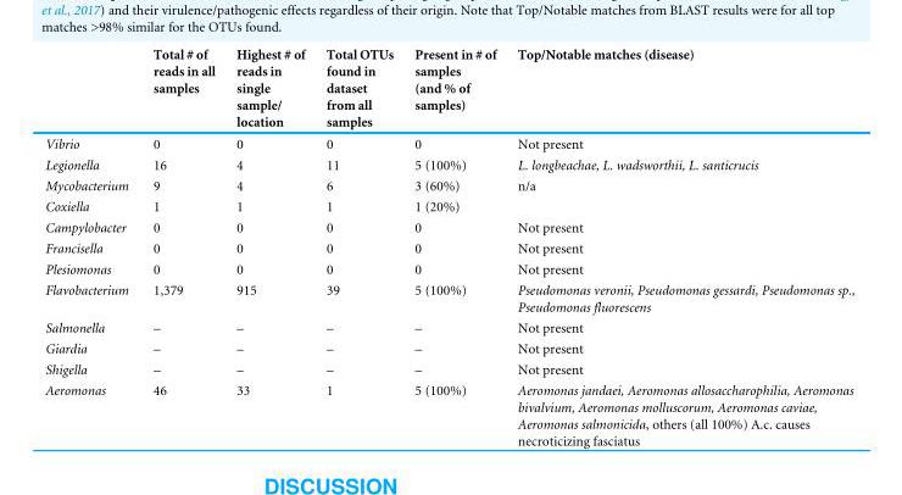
<table><thead><tr><td></td><td>Total # of reads in all samples</td><td>Highest # of reads in single sample/ location</td><td>Total OTUs found in dataset from all samples</td><td>Present in # of samples (and % of samples)</td><td>Top/Notable matches (disease)</td></tr></thead><tbody><tr><td>Vibrio</td><td>0</td><td>0</td><td>0</td><td>0</td><td>Not present</td></tr><tr><td>Legionella</td><td>16</td><td>4</td><td>11</td><td>5 (100%)</td><td>L. longbeachae, L. wadsworthii, L. santicrucis</td></tr><tr><td>Mycobacterium</td><td>9</td><td>4</td><td>6</td><td>3 (60%)</td><td>n/a</td></tr><tr><td>Coxiella</td><td>1</td><td>1</td><td>1</td><td>1 (20%)</td><td></td></tr><tr><td>Campylobacter</td><td>0</td><td>0</td><td>0</td><td>0</td><td>Not present</td></tr><tr><td>Francisella</td><td>0</td><td>0</td><td>0</td><td>0</td><td>Not present</td></tr><tr><td>Plesiomonas</td><td>0</td><td>0</td><td>0</td><td>0</td><td>Not present</td></tr><tr><td>Flavobacterium</td><td>1,379</td><td>915</td><td>39</td><td>5 (100%)</td><td>Pseudomonas veronii, Pseudomonas gessardi, Pseudomonas sp., Pseudomonas fluorescens</td></tr><tr><td>Salmonella</td><td>–</td><td>–</td><td>–</td><td>–</td><td>Not present</td></tr><tr><td>Giardia</td><td>–</td><td>–</td><td>–</td><td>–</td><td>Not present</td></tr><tr><td>Shigella</td><td>–</td><td>–</td><td>–</td><td>–</td><td>Not present</td></tr><tr><td>Aeromonas</td><td>46</td><td>33</td><td>1</td><td>5 (100%)</td><td>Aeromonas jandaei, Aeromonas allosaccharophilia, Aeromonas bivalvium, Aeromonas molluscorum, Aeromonas caviae, Aeromonas salmonicida, others (all 100%) A.c. causes necroticizing fasciatus</td></tr></tbody></table>